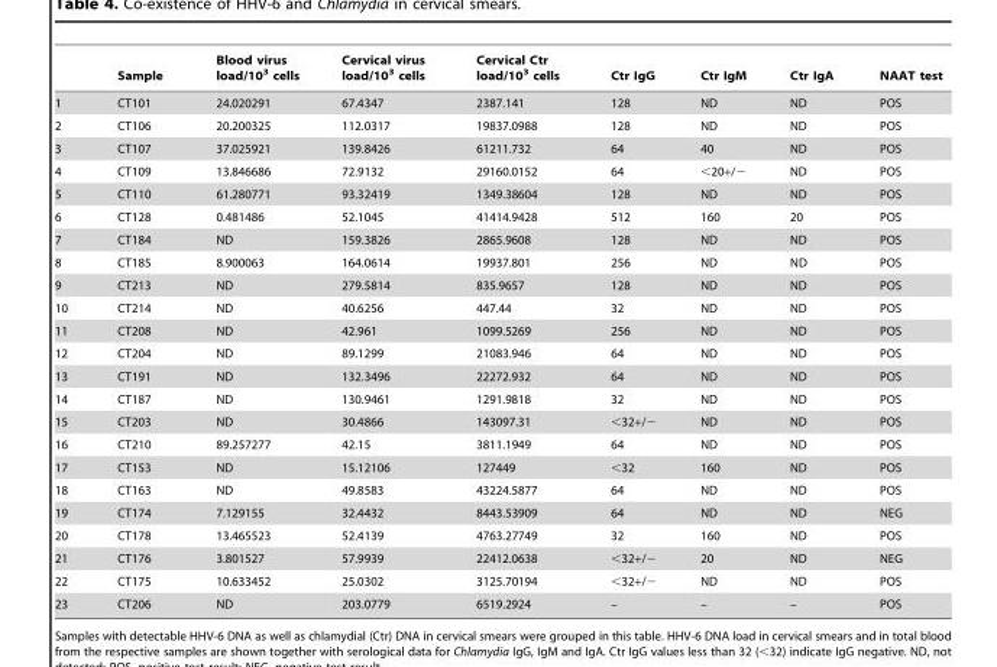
<table><thead><tr><td></td><td>Sample</td><td>Blood virus load/10<sup>3</sup> cells</td><td>Cervical virus load/10<sup>3</sup> cells</td><td>Cervical Ctr load/10<sup>3</sup> cells</td><td>Ctr IgG</td><td>Ctr IgM</td><td>Ctr IgA</td><td>NAAT test</td></tr></thead><tbody><tr><td>1</td><td>CT101</td><td>24.020291</td><td>67.4347</td><td>2387.141</td><td>128</td><td>ND</td><td>ND</td><td>POS</td></tr><tr><td>2</td><td>CT106</td><td>20.200325</td><td>112.0317</td><td>19837.0988</td><td>128</td><td>ND</td><td>ND</td><td>POS</td></tr><tr><td>3</td><td>CT107</td><td>37.025921</td><td>139.8426</td><td>61211.732</td><td>64</td><td>40</td><td>ND</td><td>POS</td></tr><tr><td>4</td><td>CT109</td><td>13.846686</td><td>72.9132</td><td>29160.0152</td><td>64</td><td>&lt;20+/−</td><td>ND</td><td>POS</td></tr><tr><td>5</td><td>CT110</td><td>61.280771</td><td>93.32419</td><td>1349.38604</td><td>128</td><td>ND</td><td>ND</td><td>POS</td></tr><tr><td>6</td><td>CT128</td><td>0.481486</td><td>52.1045</td><td>41414.9428</td><td>512</td><td>160</td><td>20</td><td>POS</td></tr><tr><td>7</td><td>CT184</td><td>ND</td><td>159.3826</td><td>2865.9608</td><td>128</td><td>ND</td><td>ND</td><td>POS</td></tr><tr><td>8</td><td>CT185</td><td>8.900063</td><td>164.0614</td><td>19937.801</td><td>256</td><td>ND</td><td>ND</td><td>POS</td></tr><tr><td>9</td><td>CT213</td><td>ND</td><td>279.5814</td><td>835.9657</td><td>128</td><td>ND</td><td>ND</td><td>POS</td></tr><tr><td>10</td><td>CT214</td><td>ND</td><td>40.6256</td><td>447.44</td><td>32</td><td>ND</td><td>ND</td><td>POS</td></tr><tr><td>11</td><td>CT208</td><td>ND</td><td>42.961</td><td>1099.5269</td><td>256</td><td>ND</td><td>ND</td><td>POS</td></tr><tr><td>12</td><td>CT204</td><td>ND</td><td>89.1299</td><td>21083.946</td><td>64</td><td>ND</td><td>ND</td><td>POS</td></tr><tr><td>13</td><td>CT191</td><td>ND</td><td>132.3496</td><td>22272.932</td><td>64</td><td>ND</td><td>ND</td><td>POS</td></tr><tr><td>14</td><td>CT187</td><td>ND</td><td>130.9461</td><td>1291.9818</td><td>32</td><td>ND</td><td>ND</td><td>POS</td></tr><tr><td>15</td><td>CT203</td><td>ND</td><td>30.4866</td><td>143097.31</td><td>&lt;32+/−</td><td>ND</td><td>ND</td><td>POS</td></tr><tr><td>16</td><td>CT210</td><td>89.257277</td><td>42.15</td><td>3811.1949</td><td>64</td><td>ND</td><td>ND</td><td>POS</td></tr><tr><td>17</td><td>CT153</td><td>ND</td><td>15.12106</td><td>127449</td><td>&lt;32</td><td>160</td><td>ND</td><td>POS</td></tr><tr><td>18</td><td>CT163</td><td>ND</td><td>49.8583</td><td>43224.5877</td><td>64</td><td>ND</td><td>ND</td><td>POS</td></tr><tr><td>19</td><td>CT174</td><td>7.129155</td><td>32.4432</td><td>8443.53909</td><td>64</td><td>ND</td><td>ND</td><td>NEG</td></tr><tr><td>20</td><td>CT178</td><td>13.465523</td><td>52.4139</td><td>4763.27749</td><td>32</td><td>160</td><td>ND</td><td>POS</td></tr><tr><td>21</td><td>CT176</td><td>3.801527</td><td>57.9939</td><td>22412.0638</td><td>&lt;32+/−</td><td>20</td><td>ND</td><td>NEG</td></tr><tr><td>22</td><td>CT175</td><td>10.633452</td><td>25.0302</td><td>3125.70194</td><td>&lt;32+/−</td><td>ND</td><td>ND</td><td>POS</td></tr><tr><td>23</td><td>CT206</td><td>ND</td><td>203.0779</td><td>6519.2924</td><td>–</td><td>–</td><td>–</td><td>POS</td></tr></tbody></table>